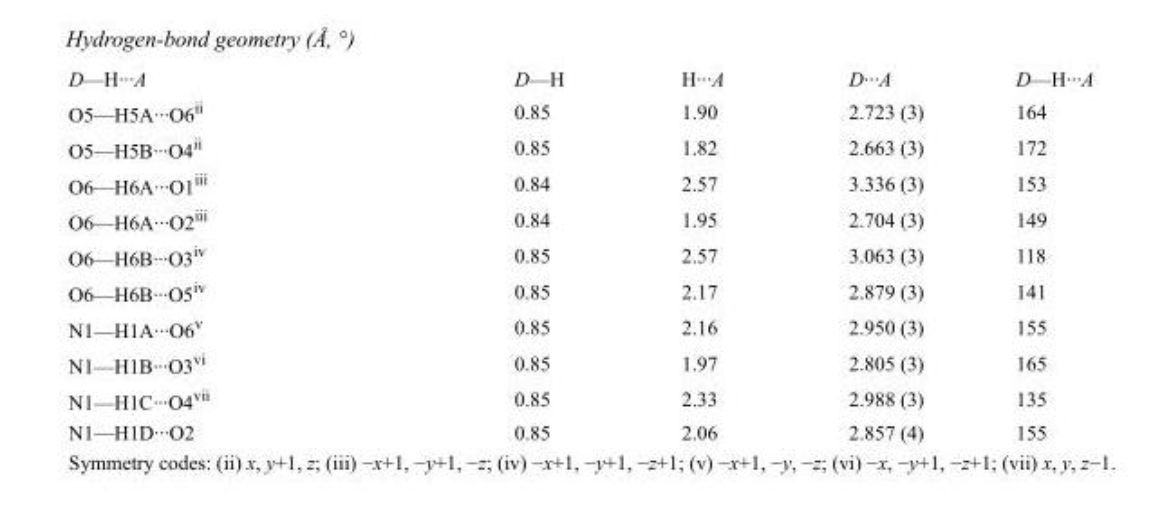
<table><tbody><tr><td>D—H···A</td><td>D—H</td><td>H···A</td><td>D···A</td><td>D—H···A</td></tr><tr><td>O5—H5A···O6<sup>ii</sup></td><td>0.85</td><td>1.90</td><td>2.723 (3)</td><td>164</td></tr><tr><td>O5—H5B···O4<sup>ii</sup></td><td>0.85</td><td>1.82</td><td>2.663 (3)</td><td>172</td></tr><tr><td>O6—H6A···O1<sup>iii</sup></td><td>0.84</td><td>2.57</td><td>3.336 (3)</td><td>153</td></tr><tr><td>O6—H6A···O2<sup>iii</sup></td><td>0.84</td><td>1.95</td><td>2.704 (3)</td><td>149</td></tr><tr><td>O6—H6B···O3<sup>iv</sup></td><td>0.85</td><td>2.57</td><td>3.063 (3)</td><td>118</td></tr><tr><td>O6—H6B···O5<sup>iv</sup></td><td>0.85</td><td>2.17</td><td>2.879 (3)</td><td>141</td></tr><tr><td>N1—H1A···O6<sup>v</sup></td><td>0.85</td><td>2.16</td><td>2.950 (3)</td><td>155</td></tr><tr><td>N1—H1B···O3<sup>vi</sup></td><td>0.85</td><td>1.97</td><td>2.805 (3)</td><td>165</td></tr><tr><td>N1—H1C···O4<sup>vii</sup></td><td>0.85</td><td>2.33</td><td>2.988 (3)</td><td>135</td></tr><tr><td>N1—H1D···O2</td><td>0.85</td><td>2.06</td><td>2.857 (4)</td><td>155</td></tr></tbody></table>